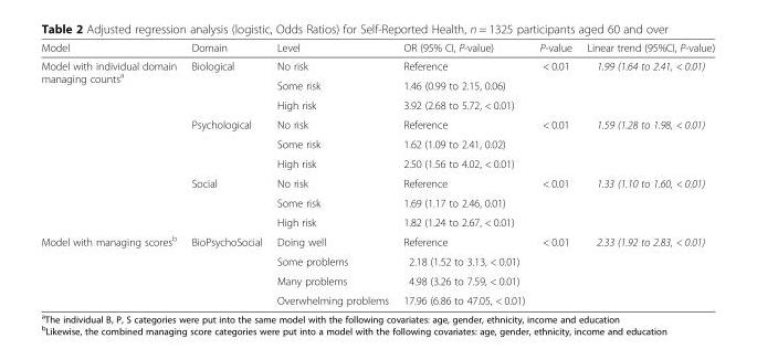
<table><thead><tr><td>Model</td><td>Domain</td><td>Level</td><td>OR (95% CI, P-value)</td><td>P-value</td><td>Linear trend (95%CI, P-value)</td></tr></thead><tbody><tr><td rowspan="9">Model with individual domain managing counts<sup>a</sup></td><td rowspan="3">Biological</td><td>No risk</td><td>Reference</td><td rowspan="3">&lt; 0.01</td><td rowspan="3">1.99 (1.64 to 2.41, &lt; 0.01)</td></tr><tr><td>Some risk</td><td>1.46 (0.99 to 2.15, 0.06)</td></tr><tr><td>High risk</td><td>3.92 (2.68 to 5.72, &lt; 0.01)</td></tr><tr><td rowspan="3">Psychological</td><td>No risk</td><td>Reference</td><td rowspan="3">&lt; 0.01</td><td rowspan="3">1.59 (1.28 to 1.98, &lt; 0.01)</td></tr><tr><td>Some risk</td><td>1.62 (1.09 to 2.41, 0.02)</td></tr><tr><td>High risk</td><td>2.50 (1.56 to 4.02, &lt; 0.01)</td></tr><tr><td rowspan="3">Social</td><td>No risk</td><td>Reference</td><td rowspan="3">&lt; 0.01</td><td rowspan="3">1.33 (1.10 to 1.60, &lt; 0.01)</td></tr><tr><td>Some risk</td><td>1.69 (1.17 to 2.46, 0.01)</td></tr><tr><td>High risk</td><td>1.82 (1.24 to 2.67, &lt; 0.01)</td></tr><tr><td rowspan="4">Model with managing scores<sup>b</sup></td><td rowspan="4">BioPsychoSocial</td><td>Doing well</td><td>Reference</td><td rowspan="4">&lt; 0.01</td><td rowspan="4">2.33 (1.92 to 2.83, &lt; 0.01)</td></tr><tr><td>Some problems</td><td>2.18 (1.52 to 3.13, &lt; 0.01)</td></tr><tr><td>Many problems</td><td>4.98 (3.26 to 7.59, &lt; 0.01)</td></tr><tr><td>Overwhelming problems</td><td>17.96 (6.86 to 47.05, &lt; 0.01)</td></tr></tbody></table>